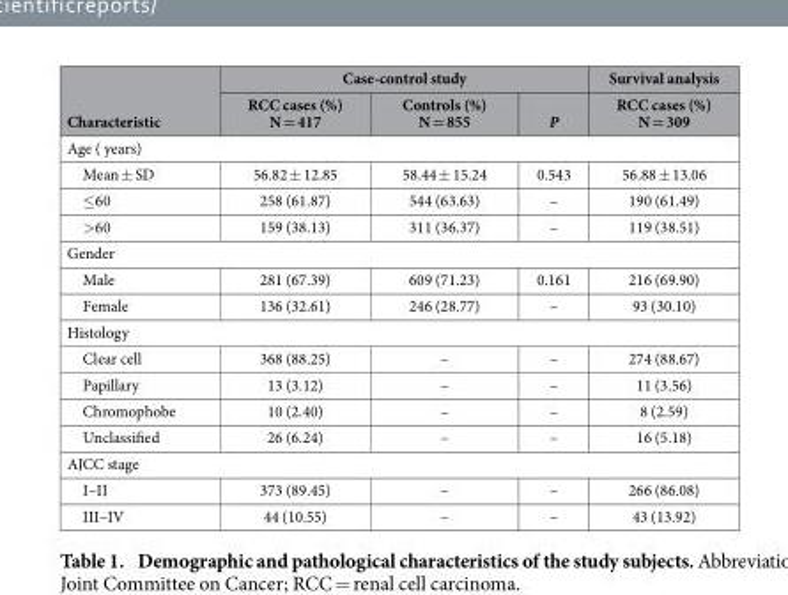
<table><thead><tr><td rowspan="2">Characteristic</td><td colspan="3">Case-control study</td><td rowspan="2">Survival analysis RCC cases (%) N = 309</td></tr><tr><td>RCC cases (%) N = 417</td><td>Controls (%) N = 855</td><td>P</td></tr></thead><tbody><tr><td colspan="5">Age ( years)</td></tr><tr><td>Mean ± SD</td><td>56.82 ± 12.85</td><td>58.44 ± 15.24</td><td>0.543</td><td>56.88 ± 13.06</td></tr><tr><td>≤ 60</td><td>258 (61.87)</td><td>544 (63.63)</td><td>–</td><td>190 (61.49)</td></tr><tr><td>&gt; 60</td><td>159 (38.13)</td><td>311 (36.37)</td><td>–</td><td>119 (38.51)</td></tr><tr><td colspan="5">Gender</td></tr><tr><td>Male</td><td>281 (67.39)</td><td>609 (71.23)</td><td>0.161</td><td>216 (69.90)</td></tr><tr><td>Female</td><td>136 (32.61)</td><td>246 (28.77)</td><td>–</td><td>93 (30.10)</td></tr><tr><td colspan="5">Histology</td></tr><tr><td>Clear cell</td><td>368 (88.25)</td><td>–</td><td>–</td><td>274 (88.67)</td></tr><tr><td>Papillary</td><td>13 (3.12)</td><td>–</td><td>–</td><td>11 (3.56)</td></tr><tr><td>Chromophobe</td><td>10 (2.40)</td><td>–</td><td>–</td><td>8 (2.59)</td></tr><tr><td>Unclassified</td><td>26 (6.24)</td><td>–</td><td>–</td><td>16 (5.18)</td></tr><tr><td colspan="5">AJCC stage</td></tr><tr><td>I–II</td><td>373 (89.45)</td><td>–</td><td>–</td><td>266 (86.08)</td></tr><tr><td>III–IV</td><td>44 (10.55)</td><td>–</td><td>–</td><td>43 (13.92)</td></tr></tbody></table>